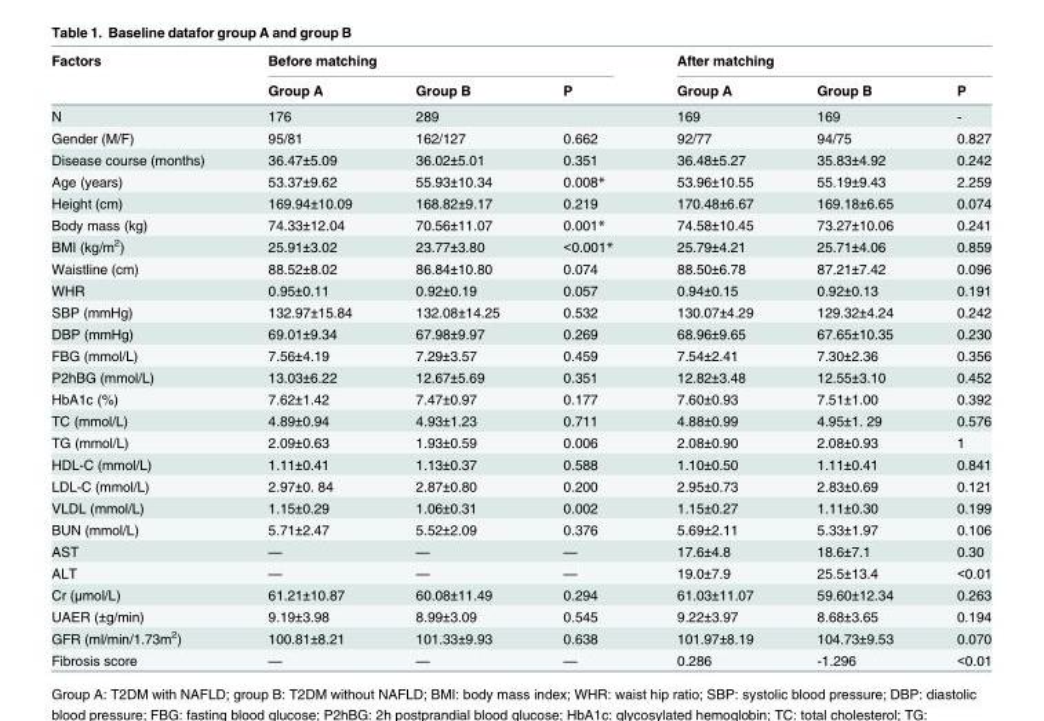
<table><thead><tr><td rowspan="2">Factors</td><td colspan="3">Before matching</td><td colspan="3">After matching</td></tr><tr><td>Group A</td><td>Group B</td><td>P</td><td>Group A</td><td>Group B</td><td>P</td></tr></thead><tbody><tr><td>N</td><td>176</td><td>289</td><td></td><td>169</td><td>169</td><td>-</td></tr><tr><td>Gender (M/F)</td><td>95/81</td><td>162/127</td><td>0.662</td><td>92/77</td><td>94/75</td><td>0.827</td></tr><tr><td>Disease course (months)</td><td>36.47±5.09</td><td>36.02±5.01</td><td>0.351</td><td>36.48±5.27</td><td>35.83±4.92</td><td>0.242</td></tr><tr><td>Age (years)</td><td>53.37±9.62</td><td>55.93±10.34</td><td>0.008*</td><td>53.96±10.55</td><td>55.19±9.43</td><td>2.259</td></tr><tr><td>Height (cm)</td><td>169.94±10.09</td><td>168.82±9.17</td><td>0.219</td><td>170.48±6.67</td><td>169.18±6.65</td><td>0.074</td></tr><tr><td>Body mass (kg)</td><td>74.33±12.04</td><td>70.56±11.07</td><td>0.001*</td><td>74.58±10.45</td><td>73.27±10.06</td><td>0.241</td></tr><tr><td>BMI (kg/m<sup>2</sup>)</td><td>25.91±3.02</td><td>23.77±3.80</td><td>&lt;0.001*</td><td>25.79±4.21</td><td>25.71±4.06</td><td>0.859</td></tr><tr><td>Waistline (cm)</td><td>88.52±8.02</td><td>86.84±10.80</td><td>0.074</td><td>88.50±6.78</td><td>87.21±7.42</td><td>0.096</td></tr><tr><td>WHR</td><td>0.95±0.11</td><td>0.92±0.19</td><td>0.057</td><td>0.94±0.15</td><td>0.92±0.13</td><td>0.191</td></tr><tr><td>SBP (mmHg)</td><td>132.97±15.84</td><td>132.08±14.25</td><td>0.532</td><td>130.07±4.29</td><td>129.32±4.24</td><td>0.242</td></tr><tr><td>DBP (mmHg)</td><td>69.01±9.34</td><td>67.98±9.97</td><td>0.269</td><td>68.96±9.65</td><td>67.65±10.35</td><td>0.230</td></tr><tr><td>FBG (mmol/L)</td><td>7.56±4.19</td><td>7.29±3.57</td><td>0.459</td><td>7.54±2.41</td><td>7.30±2.36</td><td>0.356</td></tr><tr><td>P2hBG (mmol/L)</td><td>13.03±6.22</td><td>12.67±5.69</td><td>0.351</td><td>12.82±3.48</td><td>12.55±3.10</td><td>0.452</td></tr><tr><td>HbA1c (%)</td><td>7.62±1.42</td><td>7.47±0.97</td><td>0.177</td><td>7.60±0.93</td><td>7.51±1.00</td><td>0.392</td></tr><tr><td>TC (mmol/L)</td><td>4.89±0.94</td><td>4.93±1.23</td><td>0.711</td><td>4.88±0.99</td><td>4.95±1. 29</td><td>0.576</td></tr><tr><td>TG (mmol/L)</td><td>2.09±0.63</td><td>1.93±0.59</td><td>0.006</td><td>2.08±0.90</td><td>2.08±0.93</td><td>1</td></tr><tr><td>HDL-C (mmol/L)</td><td>1.11±0.41</td><td>1.13±0.37</td><td>0.588</td><td>1.10±0.50</td><td>1.11±0.41</td><td>0.841</td></tr><tr><td>LDL-C (mmol/L)</td><td>2.97±0. 84</td><td>2.87±0.80</td><td>0.200</td><td>2.95±0.73</td><td>2.83±0.69</td><td>0.121</td></tr><tr><td>VLDL (mmol/L)</td><td>1.15±0.29</td><td>1.06±0.31</td><td>0.002</td><td>1.15±0.27</td><td>1.11±0.30</td><td>0.199</td></tr><tr><td>BUN (mmol/L)</td><td>5.71±2.47</td><td>5.52±2.09</td><td>0.376</td><td>5.69±2.11</td><td>5.33±1.97</td><td>0.106</td></tr><tr><td>AST</td><td>—</td><td>—</td><td>—</td><td>17.6±4.8</td><td>18.6±7.1</td><td>0.30</td></tr><tr><td>ALT</td><td>—</td><td>—</td><td>—</td><td>19.0±7.9</td><td>25.5±13.4</td><td>&lt;0.01</td></tr><tr><td>Cr (μmol/L)</td><td>61.21±10.87</td><td>60.08±11.49</td><td>0.294</td><td>61.03±11.07</td><td>59.60±12.34</td><td>0.263</td></tr><tr><td>UAER (±g/min)</td><td>9.19±3.98</td><td>8.99±3.09</td><td>0.545</td><td>9.22±3.97</td><td>8.68±3.65</td><td>0.194</td></tr><tr><td>GFR (ml/min/1.73m<sup>2</sup>)</td><td>100.81±8.21</td><td>101.33±9.93</td><td>0.638</td><td>101.97±8.19</td><td>104.73±9.53</td><td>0.070</td></tr><tr><td>Fibrosis score</td><td>—</td><td>—</td><td>—</td><td>0.286</td><td>-1.296</td><td>&lt;0.01</td></tr></tbody></table>